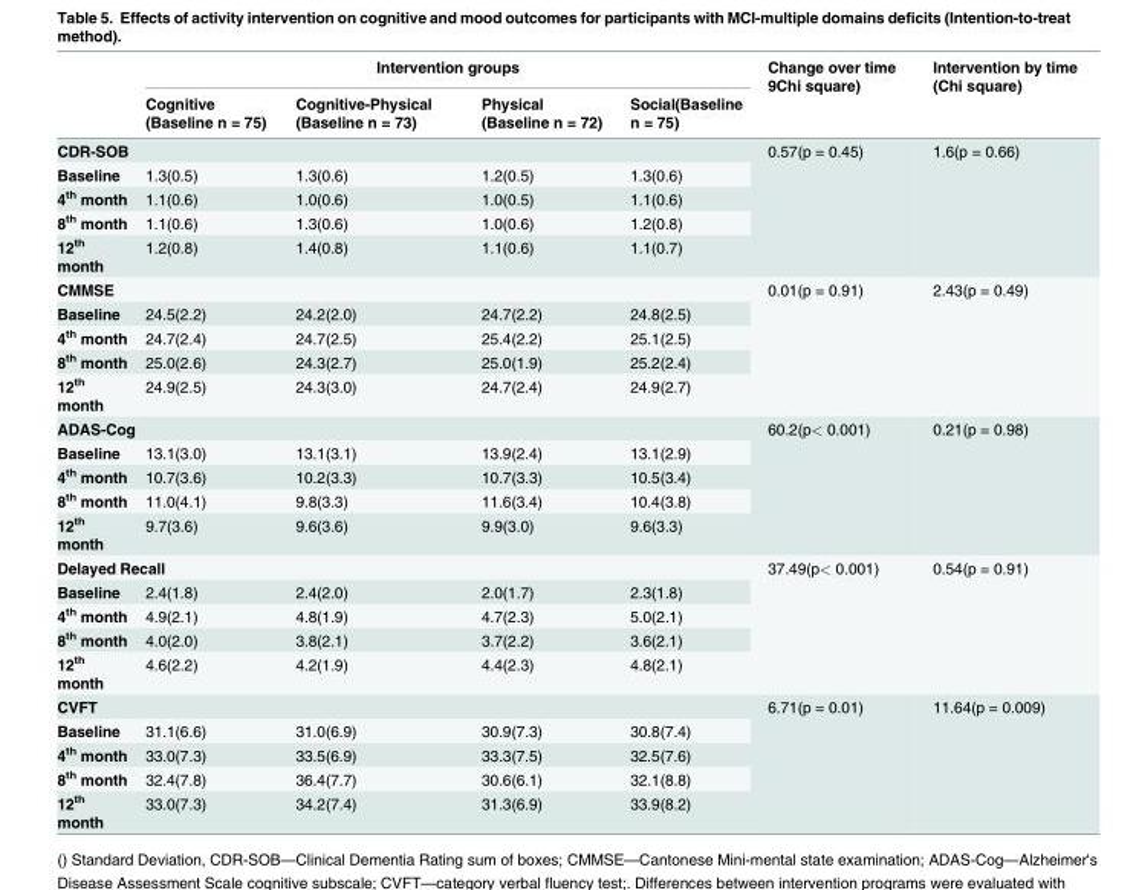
<table><thead><tr><td rowspan="2"></td><td colspan="4">Intervention groups</td><td rowspan="2">Change over time 9Chi square)</td><td rowspan="2">Intervention by time (Chi square)</td></tr><tr><td>Cognitive (Baseline n = 75)</td><td>Cognitive-Physical (Baseline n = 73)</td><td>Physical (Baseline n = 72)</td><td>Social(Baseline n = 75)</td></tr></thead><tbody><tr><td colspan="5">CDR-SOB</td><td rowspan="5">0.57(p = 0.45)</td><td rowspan="5">1.6(p = 0.66)</td></tr><tr><td>Baseline</td><td>1.3(0.5)</td><td>1.3(0.6)</td><td>1.2(0.5)</td><td>1.3(0.6)</td></tr><tr><td>4<sup>th</sup> month</td><td>1.1(0.6)</td><td>1.0(0.6)</td><td>1.0(0.5)</td><td>1.1(0.6)</td></tr><tr><td>8<sup>th</sup> month</td><td>1.1(0.6)</td><td>1.3(0.6)</td><td>1.0(0.6)</td><td>1.2(0.8)</td></tr><tr><td>12<sup>th</sup> month</td><td>1.2(0.8)</td><td>1.4(0.8)</td><td>1.1(0.6)</td><td>1.1(0.7)</td></tr><tr><td colspan="5">CMMSE</td><td rowspan="5">0.01(p = 0.91)</td><td rowspan="5">2.43(p = 0.49)</td></tr><tr><td>Baseline</td><td>24.5(2.2)</td><td>24.2(2.0)</td><td>24.7(2.2)</td><td>24.8(2.5)</td></tr><tr><td>4<sup>th</sup> month</td><td>24.7(2.4)</td><td>24.7(2.5)</td><td>25.4(2.2)</td><td>25.1(2.5)</td></tr><tr><td>8<sup>th</sup> month</td><td>25.0(2.6)</td><td>24.3(2.7)</td><td>25.0(1.9)</td><td>25.2(2.4)</td></tr><tr><td>12<sup>th</sup> month</td><td>24.9(2.5)</td><td>24.3(3.0)</td><td>24.7(2.4)</td><td>24.9(2.7)</td></tr><tr><td colspan="5">ADAS-Cog</td><td rowspan="5">60.2(p&lt; 0.001)</td><td rowspan="5">0.21(p = 0.98)</td></tr><tr><td>Baseline</td><td>13.1(3.0)</td><td>13.1(3.1)</td><td>13.9(2.4)</td><td>13.1(2.9)</td></tr><tr><td>4<sup>th</sup> month</td><td>10.7(3.6)</td><td>10.2(3.3)</td><td>10.7(3.3)</td><td>10.5(3.4)</td></tr><tr><td>8<sup>th</sup> month</td><td>11.0(4.1)</td><td>9.8(3.3)</td><td>11.6(3.4)</td><td>10.4(3.8)</td></tr><tr><td>12<sup>th</sup> month</td><td>9.7(3.6)</td><td>9.6(3.6)</td><td>9.9(3.0)</td><td>9.6(3.3)</td></tr><tr><td colspan="5">Delayed Recall</td><td rowspan="5">37.49(p&lt; 0.001)</td><td rowspan="5">0.54(p = 0.91)</td></tr><tr><td>Baseline</td><td>2.4(1.8)</td><td>2.4(2.0)</td><td>2.0(1.7)</td><td>2.3(1.8)</td></tr><tr><td>4<sup>th</sup> month</td><td>4.9(2.1)</td><td>4.8(1.9)</td><td>4.7(2.3)</td><td>5.0(2.1)</td></tr><tr><td>8<sup>th</sup> month</td><td>4.0(2.0)</td><td>3.8(2.1)</td><td>3.7(2.2)</td><td>3.6(2.1)</td></tr><tr><td>12<sup>th</sup> month</td><td>4.6(2.2)</td><td>4.2(1.9)</td><td>4.4(2.3)</td><td>4.8(2.1)</td></tr><tr><td colspan="5">CVFT</td><td rowspan="5">6.71(p = 0.01)</td><td rowspan="5">11.64(p = 0.009)</td></tr><tr><td>Baseline</td><td>31.1(6.6)</td><td>31.0(6.9)</td><td>30.9(7.3)</td><td>30.8(7.4)</td></tr><tr><td>4<sup>th</sup> month</td><td>33.0(7.3)</td><td>33.5(6.9)</td><td>33.3(7.5)</td><td>32.5(7.6)</td></tr><tr><td>8<sup>th</sup> month</td><td>32.4(7.8)</td><td>36.4(7.7)</td><td>30.6(6.1)</td><td>32.1(8.8)</td></tr><tr><td>12<sup>th</sup> month</td><td>33.0(7.3)</td><td>34.2(7.4)</td><td>31.3(6.9)</td><td>33.9(8.2)</td></tr></tbody></table>